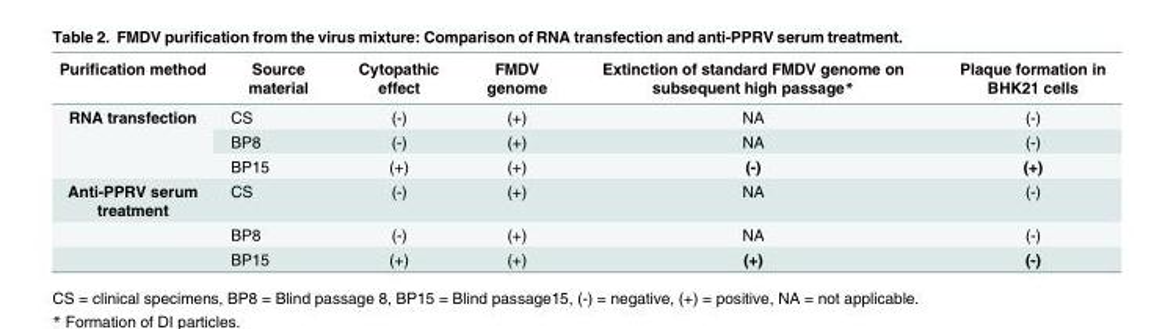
<table><thead><tr><td>Purification method</td><td>Source material</td><td>Cytopathic effect</td><td>FMDV genome</td><td>Extinction of standard FMDV genome on subsequent high passage*</td><td>Plaque formation in BHK21 cells</td></tr></thead><tbody><tr><td rowspan="3">RNA transfection</td><td>CS</td><td>(-)</td><td>(+)</td><td>NA</td><td>(-)</td></tr><tr><td>BP8</td><td>(-)</td><td>(+)</td><td>NA</td><td>(-)</td></tr><tr><td>BP15</td><td>(+)</td><td>(+)</td><td>(-)</td><td>(+)</td></tr><tr><td rowspan="3">Anti-PPRV serum treatment</td><td>CS</td><td>(-)</td><td>(+)</td><td>NA</td><td>(-)</td></tr><tr><td>BP8</td><td>(-)</td><td>(+)</td><td>NA</td><td>(-)</td></tr><tr><td>BP15</td><td>(+)</td><td>(+)</td><td>(+)</td><td>(-)</td></tr></tbody></table>